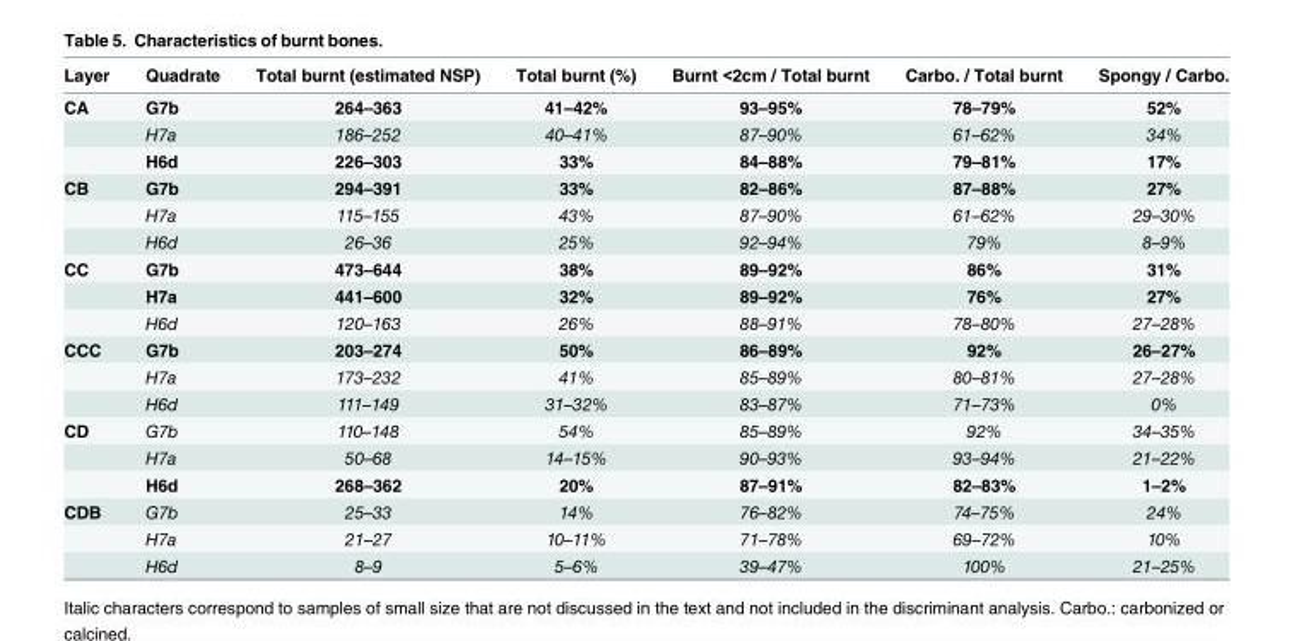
<table><thead><tr><td>Layer</td><td>Quadrate</td><td>Total burnt (estimated NSP)</td><td>Total burnt (%)</td><td>Burnt &lt;2cm / Total burnt</td><td>Carbo. / Total burnt</td><td>Spongy / Carbo.</td></tr></thead><tbody><tr><td rowspan="3">CA</td><td>G7b</td><td>264–363</td><td>41–42%</td><td>93–95%</td><td>78–79%</td><td>52%</td></tr><tr><td>H7a</td><td>186–252</td><td>40–41%</td><td>87–90%</td><td>61–62%</td><td>34%</td></tr><tr><td>H6d</td><td>226–303</td><td>33%</td><td>84–88%</td><td>79–81%</td><td>17%</td></tr><tr><td rowspan="3">CB</td><td>G7b</td><td>294–391</td><td>33%</td><td>82–86%</td><td>87–88%</td><td>27%</td></tr><tr><td>H7a</td><td>115–155</td><td>43%</td><td>87–90%</td><td>61–62%</td><td>29–30%</td></tr><tr><td>H6d</td><td>26–36</td><td>25%</td><td>92–94%</td><td>79%</td><td>8–9%</td></tr><tr><td rowspan="3">CC</td><td>G7b</td><td>473–644</td><td>38%</td><td>89–92%</td><td>86%</td><td>31%</td></tr><tr><td>H7a</td><td>441–600</td><td>32%</td><td>89–92%</td><td>76%</td><td>27%</td></tr><tr><td>H6d</td><td>120–163</td><td>26%</td><td>88–91%</td><td>78–80%</td><td>27–28%</td></tr><tr><td rowspan="3">CCC</td><td>G7b</td><td>203–274</td><td>50%</td><td>86–89%</td><td>92%</td><td>26–27%</td></tr><tr><td>H7a</td><td>173–232</td><td>41%</td><td>85–89%</td><td>80–81%</td><td>27–28%</td></tr><tr><td>H6d</td><td>111–149</td><td>31–32%</td><td>83–87%</td><td>71–73%</td><td>0%</td></tr><tr><td rowspan="3">CD</td><td>G7b</td><td>110–148</td><td>54%</td><td>85–89%</td><td>92%</td><td>34–35%</td></tr><tr><td>H7a</td><td>50–68</td><td>14–15%</td><td>90–93%</td><td>93–94%</td><td>21–22%</td></tr><tr><td>H6d</td><td>268–362</td><td>20%</td><td>87–91%</td><td>82–83%</td><td>1–2%</td></tr><tr><td rowspan="3">CDB</td><td>G7b</td><td>25–33</td><td>14%</td><td>76–82%</td><td>74–75%</td><td>24%</td></tr><tr><td>H7a</td><td>21–27</td><td>10–11%</td><td>71–78%</td><td>69–72%</td><td>10%</td></tr><tr><td>H6d</td><td>8–9</td><td>5–6%</td><td>39–47%</td><td>100%</td><td>21–25%</td></tr></tbody></table>